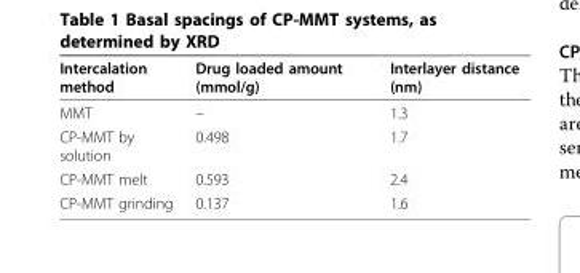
<table><thead><tr><td>Intercalation method</td><td>Drug loaded amount (mmol/g)</td><td>Interlayer distance (nm)</td></tr></thead><tbody><tr><td>MMT</td><td>–</td><td>1.3</td></tr><tr><td>CP-MMT by solution</td><td>0.498</td><td>1.7</td></tr><tr><td>CP-MMT melt</td><td>0.593</td><td>2.4</td></tr><tr><td>CP-MMT grinding</td><td>0.137</td><td>1.6</td></tr></tbody></table>